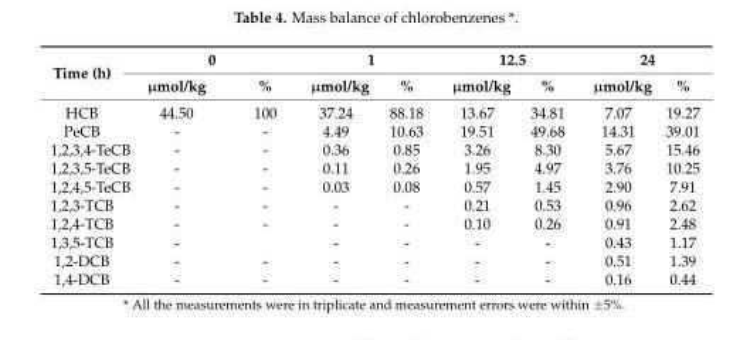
<table><thead><tr><td rowspan="2">Time (h)</td><td colspan="2">0</td><td colspan="2">1</td><td colspan="2">12.5</td><td colspan="2">24</td></tr><tr><td>µmol/kg</td><td>%</td><td>µmol/kg</td><td>%</td><td>µmol/kg</td><td>%</td><td>µmol/kg</td><td>%</td></tr></thead><tbody><tr><td>HCB</td><td>44.50</td><td>100</td><td>37.24</td><td>88.18</td><td>13.67</td><td>34.81</td><td>7.07</td><td>19.27</td></tr><tr><td>PeCB</td><td>-</td><td>-</td><td>4.49</td><td>10.63</td><td>19.51</td><td>49.68</td><td>14.31</td><td>39.01</td></tr><tr><td>1,2,3,4-TeCB</td><td>-</td><td>-</td><td>0.36</td><td>0.85</td><td>3.26</td><td>8.30</td><td>5.67</td><td>15.46</td></tr><tr><td>1,2,3,5-TeCB</td><td>-</td><td>-</td><td>0.11</td><td>0.26</td><td>1.95</td><td>4.97</td><td>3.76</td><td>10.25</td></tr><tr><td>1,2,4,5-TeCB</td><td>-</td><td>-</td><td>0.03</td><td>0.08</td><td>0.57</td><td>1.45</td><td>2.90</td><td>7.91</td></tr><tr><td>1,2,3-TCB</td><td>-</td><td>-</td><td>-</td><td>-</td><td>0.21</td><td>0.53</td><td>0.96</td><td>2.62</td></tr><tr><td>1,2,4-TCB</td><td>-</td><td>-</td><td>-</td><td>-</td><td>0.10</td><td>0.26</td><td>0.91</td><td>2.48</td></tr><tr><td>1,3,5-TCB</td><td>-</td><td></td><td>-</td><td>-</td><td>-</td><td>-</td><td>0.43</td><td>1.17</td></tr><tr><td>1,2-DCB</td><td>-</td><td>-</td><td>-</td><td>-</td><td>-</td><td>-</td><td>0.51</td><td>1.39</td></tr><tr><td>1,4-DCB</td><td>-</td><td>-</td><td>-</td><td>-</td><td>-</td><td>-</td><td>0.16</td><td>0.44</td></tr></tbody></table>